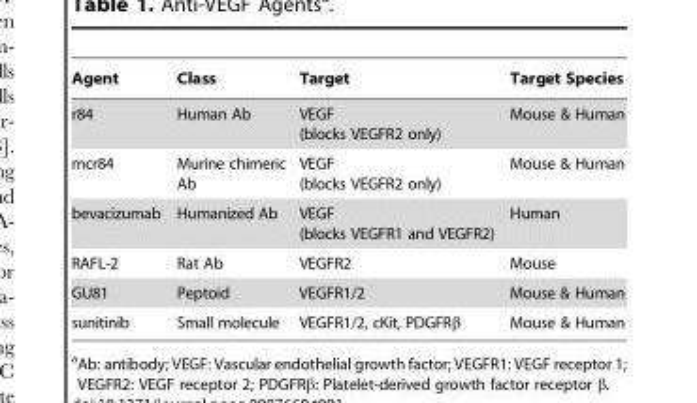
<table><thead><tr><td>Agent</td><td>Class</td><td>Target</td><td>Target Species</td></tr></thead><tbody><tr><td>r84</td><td>Human Ab</td><td>VEGF (blocks VEGFR2 only)</td><td>Mouse &amp; Human</td></tr><tr><td>mcr84</td><td>Murine chimeric Ab</td><td>VEGF (blocks VEGFR2 only)</td><td>Mouse &amp; Human</td></tr><tr><td>bevacizumab</td><td>Humanized Ab</td><td>VEGF (blocks VEGFR1 and VEGFR2)</td><td>Human</td></tr><tr><td>RAFL-2</td><td>Rat Ab</td><td>VEGFR2</td><td>Mouse</td></tr><tr><td>GU81</td><td>Peptoid</td><td>VEGFR1/2</td><td>Mouse &amp; Human</td></tr><tr><td>sunitinib</td><td>Small molecule</td><td>VEGFR1/2, cKit, PDGFRβ</td><td>Mouse &amp; Human</td></tr></tbody></table>